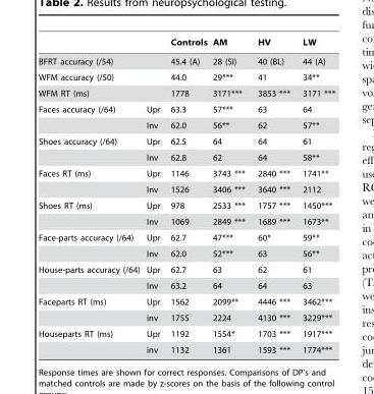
<table><thead><tr><td></td><td></td><td>Controls</td><td>AM</td><td>HV</td><td>LW</td></tr></thead><tbody><tr><td>BFRT accuracy (/54)</td><td></td><td>45.4 (A)</td><td>28 (SI)</td><td>40 (BL)</td><td>44 (A)</td></tr><tr><td>WFM accuracy (/50)</td><td></td><td>44.0</td><td>29***</td><td>41</td><td>34**</td></tr><tr><td>WFM RT (ms)</td><td></td><td>1778</td><td>3171***</td><td>3853 ***</td><td>3171 ***</td></tr><tr><td rowspan="2">Faces accuracy (/64)</td><td>Upr</td><td>63.3</td><td>57***</td><td>63</td><td>64</td></tr><tr><td>Inv</td><td>62.0</td><td>56**</td><td>62</td><td>57**</td></tr><tr><td rowspan="2">Shoes accuracy (/64)</td><td>Upr</td><td>62.5</td><td>64</td><td>64</td><td>61</td></tr><tr><td>Inv</td><td>62.8</td><td>62</td><td>64</td><td>58**</td></tr><tr><td rowspan="2">Faces RT (ms)</td><td>Upr</td><td>1146</td><td>3743 ***</td><td>2840 ***</td><td>1741**</td></tr><tr><td>Inv</td><td>1526</td><td>3406 ***</td><td>3640 ***</td><td>2112</td></tr><tr><td rowspan="2">Shoes RT (ms)</td><td>Upr</td><td>978</td><td>2533 ***</td><td>1757 ***</td><td>1450***</td></tr><tr><td>Inv</td><td>1069</td><td>2849 ***</td><td>1689 ***</td><td>1673**</td></tr><tr><td rowspan="2">Face-parts accuracy (/64)</td><td>Upr</td><td>62.7</td><td>47***</td><td>60*</td><td>59**</td></tr><tr><td>Inv</td><td>62.0</td><td>52***</td><td>63</td><td>56**</td></tr><tr><td rowspan="2">House-parts accuracy (/64)</td><td>Upr</td><td>62.7</td><td>63</td><td>62</td><td>61</td></tr><tr><td>Inv</td><td>63.2</td><td>64</td><td>64</td><td>63</td></tr><tr><td rowspan="2">Faceparts RT (ms)</td><td>Upr</td><td>1562</td><td>2099**</td><td>4446 ***</td><td>3462***</td></tr><tr><td>inv</td><td>1755</td><td>2224</td><td>4130 ***</td><td>3229***</td></tr><tr><td rowspan="2">Houseparts RT (ms)</td><td>Upr</td><td>1192</td><td>1554*</td><td>1703 ***</td><td>1917***</td></tr><tr><td>inv</td><td>1132</td><td>1361</td><td>1593 ***</td><td>1774***</td></tr></tbody></table>